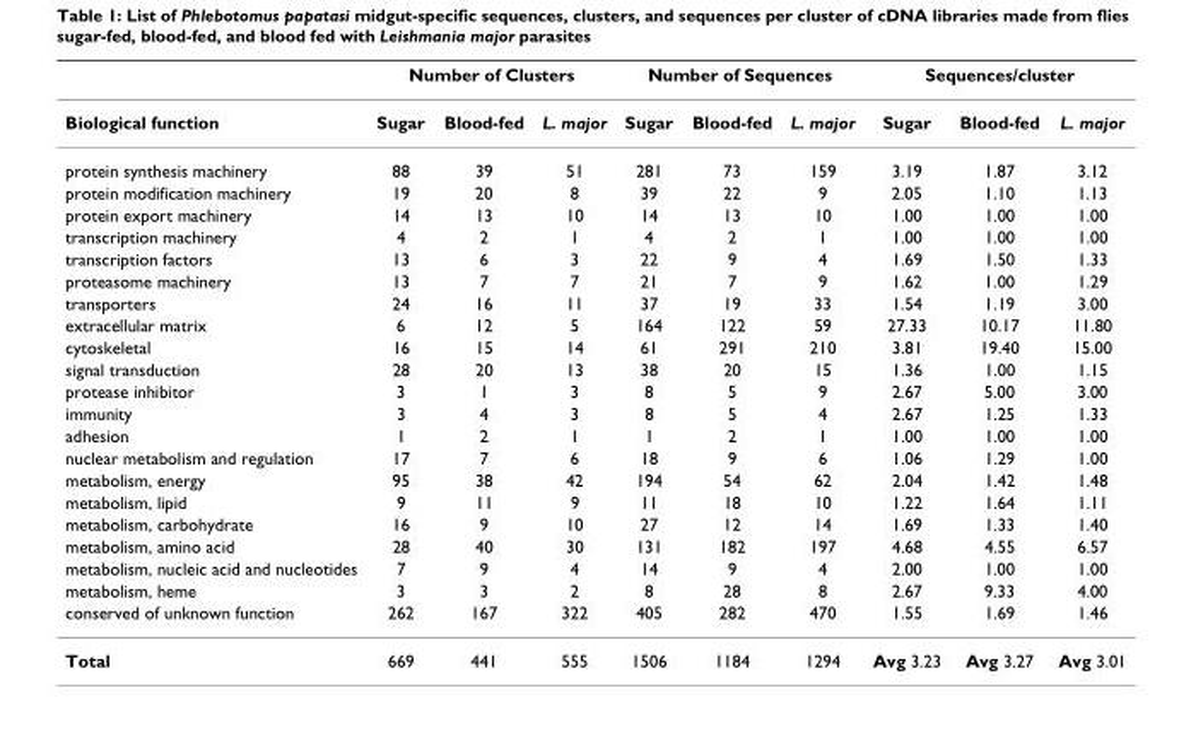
<table><thead><tr><td rowspan="2">Biological function</td><td colspan="3">Number of Clusters</td><td colspan="3">Number of Sequences</td><td colspan="3">Sequences/cluster</td></tr><tr><td>Sugar</td><td>Blood-fed</td><td>L. major</td><td>Sugar</td><td>Blood-fed</td><td>L. major</td><td>Sugar</td><td>Blood-fed</td><td>L. major</td></tr></thead><tbody><tr><td>protein synthesis machinery</td><td>88</td><td>39</td><td>51</td><td>281</td><td>73</td><td>159</td><td>3.19</td><td>1.87</td><td>3.12</td></tr><tr><td>protein modification machinery</td><td>19</td><td>20</td><td>8</td><td>39</td><td>22</td><td>9</td><td>2.05</td><td>1.10</td><td>1.13</td></tr><tr><td>protein export machinery</td><td>14</td><td>13</td><td>10</td><td>14</td><td>13</td><td>10</td><td>1.00</td><td>1.00</td><td>1.00</td></tr><tr><td>transcription machinery</td><td>4</td><td>2</td><td>1</td><td>4</td><td>2</td><td>1</td><td>1.00</td><td>1.00</td><td>1.00</td></tr><tr><td>transcription factors</td><td>13</td><td>6</td><td>3</td><td>22</td><td>9</td><td>4</td><td>1.69</td><td>1.50</td><td>1.33</td></tr><tr><td>proteasome machinery</td><td>13</td><td>7</td><td>7</td><td>21</td><td>7</td><td>9</td><td>1.62</td><td>1.00</td><td>1.29</td></tr><tr><td>transporters</td><td>24</td><td>16</td><td>11</td><td>37</td><td>19</td><td>33</td><td>1.54</td><td>1.19</td><td>3.00</td></tr><tr><td>extracellular matrix</td><td>6</td><td>12</td><td>5</td><td>164</td><td>122</td><td>59</td><td>27.33</td><td>10.17</td><td>11.80</td></tr><tr><td>cytoskeletal</td><td>16</td><td>15</td><td>14</td><td>61</td><td>291</td><td>210</td><td>3.81</td><td>19.40</td><td>15.00</td></tr><tr><td>signal transduction</td><td>28</td><td>20</td><td>13</td><td>38</td><td>20</td><td>15</td><td>1.36</td><td>1.00</td><td>1.15</td></tr><tr><td>protease inhibitor</td><td>3</td><td>1</td><td>3</td><td>8</td><td>5</td><td>9</td><td>2.67</td><td>5.00</td><td>3.00</td></tr><tr><td>immunity</td><td>3</td><td>4</td><td>3</td><td>8</td><td>5</td><td>4</td><td>2.67</td><td>1.25</td><td>1.33</td></tr><tr><td>adhesion</td><td>1</td><td>2</td><td>1</td><td>1</td><td>2</td><td>1</td><td>1.00</td><td>1.00</td><td>1.00</td></tr><tr><td>nuclear metabolism and regulation</td><td>17</td><td>7</td><td>6</td><td>18</td><td>9</td><td>6</td><td>1.06</td><td>1.29</td><td>1.00</td></tr><tr><td>metabolism, energy</td><td>95</td><td>38</td><td>42</td><td>194</td><td>54</td><td>62</td><td>2.04</td><td>1.42</td><td>1.48</td></tr><tr><td>metabolism, lipid</td><td>9</td><td>11</td><td>9</td><td>11</td><td>18</td><td>10</td><td>1.22</td><td>1.64</td><td>1.11</td></tr><tr><td>metabolism, carbohydrate</td><td>16</td><td>9</td><td>10</td><td>27</td><td>12</td><td>14</td><td>1.69</td><td>1.33</td><td>1.40</td></tr><tr><td>metabolism, amino acid</td><td>28</td><td>40</td><td>30</td><td>131</td><td>182</td><td>197</td><td>4.68</td><td>4.55</td><td>6.57</td></tr><tr><td>metabolism, nucleic acid and nucleotides</td><td>7</td><td>9</td><td>4</td><td>14</td><td>9</td><td>4</td><td>2.00</td><td>1.00</td><td>1.00</td></tr><tr><td>metabolism, heme</td><td>3</td><td>3</td><td>2</td><td>8</td><td>28</td><td>8</td><td>2.67</td><td>9.33</td><td>4.00</td></tr><tr><td>conserved of unknown function</td><td>262</td><td>167</td><td>322</td><td>405</td><td>282</td><td>470</td><td>1.55</td><td>1.69</td><td>1.46</td></tr><tr><td>Total</td><td>669</td><td>441</td><td>555</td><td>1506</td><td>1184</td><td>1294</td><td>Avg 3.23</td><td>Avg 3.27</td><td>Avg 3.01</td></tr></tbody></table>